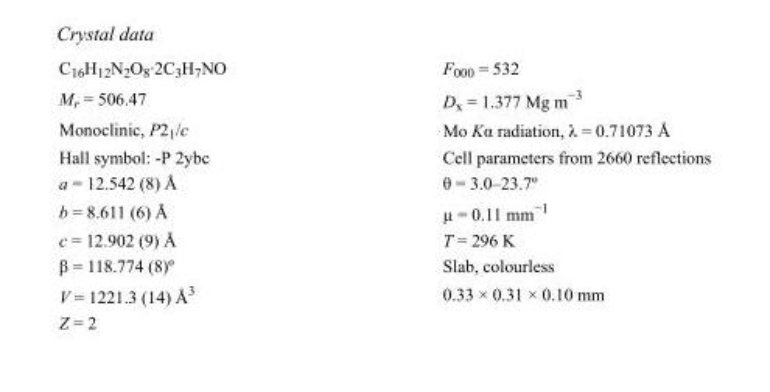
<table><tbody><tr><td>C<sub>16</sub>H<sub>12</sub>N<sub>2</sub>O<sub>8</sub>·2C<sub>3</sub>H<sub>7</sub>NO</td><td>F000 = 532</td></tr><tr><td>M<sub>r</sub> = 506.47</td><td>D<sub>x</sub> = 1.377 Mg m<sup>−3</sup></td></tr><tr><td>Monoclinic, P2<sub>1</sub>/c</td><td>Mo Kα radiation, λ = 0.71073 Å</td></tr><tr><td>Hall symbol: -P 2ybc</td><td>Cell parameters from 2660 reflections</td></tr><tr><td>a = 12.542 (8) Å</td><td>θ = 3.0–23.7º</td></tr><tr><td>b = 8.611 (6) Å</td><td>µ = 0.11 mm<sup>−1</sup></td></tr><tr><td>c = 12.902 (9) Å</td><td>T = 296 K</td></tr><tr><td>β = 118.774 (8)º</td><td>Slab, colourless</td></tr><tr><td>V = 1221.3 (14) Å<sup>3</sup></td><td>0.33 × 0.31 × 0.10 mm</td></tr><tr><td>Z = 2</td><td></td></tr></tbody></table>